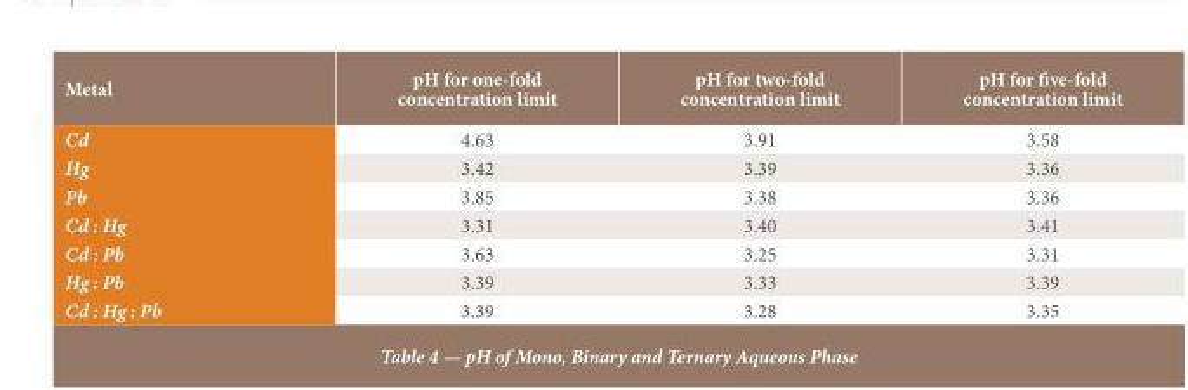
<table><thead><tr><td>Metal</td><td>pH for one-fold concentration limit</td><td>pH for two-fold concentration limit</td><td>pH for five-fold concentration limit</td></tr></thead><tbody><tr><td>Cd</td><td>4.63</td><td>3.91</td><td>3.58</td></tr><tr><td>Hg</td><td>3.42</td><td>3.39</td><td>3.36</td></tr><tr><td>Pb</td><td>3.85</td><td>3.38</td><td>3.36</td></tr><tr><td>Cd : Hg</td><td>3.31</td><td>3.40</td><td>3.41</td></tr><tr><td>Cd : Pb</td><td>3.63</td><td>3.25</td><td>3.31</td></tr><tr><td>Hg : Pb</td><td>3.39</td><td>3.33</td><td>3.39</td></tr><tr><td>Cd : Hg : Pb</td><td>3.39</td><td>3.28</td><td>3.35</td></tr></tbody></table>